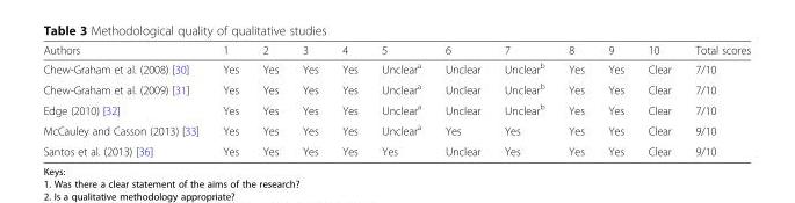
<table><thead><tr><td>Authors</td><td>1</td><td>2</td><td>3</td><td>4</td><td>5</td><td>6</td><td>7</td><td>8</td><td>9</td><td>10</td><td>Total scores</td></tr></thead><tbody><tr><td>Chew-Graham et al. (2008) [30]</td><td>Yes</td><td>Yes</td><td>Yes</td><td>Yes</td><td>Unclear<sup>a</sup></td><td>Unclear</td><td>Unclear<sup>b</sup></td><td>Yes</td><td>Yes</td><td>Clear</td><td>7/10</td></tr><tr><td>Chew-Graham et al. (2009) [31]</td><td>Yes</td><td>Yes</td><td>Yes</td><td>Yes</td><td>Unclear<sup>a</sup></td><td>Unclear</td><td>Unclear<sup>b</sup></td><td>Yes</td><td>Yes</td><td>Clear</td><td>7/10</td></tr><tr><td>Edge (2010) [32]</td><td>Yes</td><td>Yes</td><td>Yes</td><td>Yes</td><td>Unclear<sup>a</sup></td><td>Unclear</td><td>Unclear<sup>b</sup></td><td>Yes</td><td>Yes</td><td>Clear</td><td>7/10</td></tr><tr><td>McCauley and Casson (2013) [33]</td><td>Yes</td><td>Yes</td><td>Yes</td><td>Yes</td><td>Unclear<sup>a</sup></td><td>Yes</td><td>Yes</td><td>Yes</td><td>Yes</td><td>Clear</td><td>9/10</td></tr><tr><td>Santos et al. (2013) [36]</td><td>Yes</td><td>Yes</td><td>Yes</td><td>Yes</td><td>Yes</td><td>Unclear</td><td>Yes</td><td>Yes</td><td>Yes</td><td>Clear</td><td>9/10</td></tr></tbody></table>